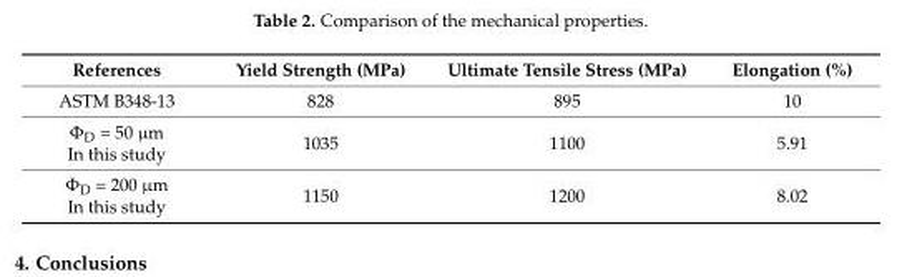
<table><thead><tr><td>References</td><td>Yield Strength (MPa)</td><td>Ultimate Tensile Stress (MPa)</td><td>Elongation (%)</td></tr></thead><tbody><tr><td>ASTM B348-13</td><td>828</td><td>895</td><td>10</td></tr><tr><td>Φ<sub>D</sub> = 50 µm In this study</td><td>1035</td><td>1100</td><td>5.91</td></tr><tr><td>Φ<sub>D</sub> = 200 µm In this study</td><td>1150</td><td>1200</td><td>8.02</td></tr></tbody></table>